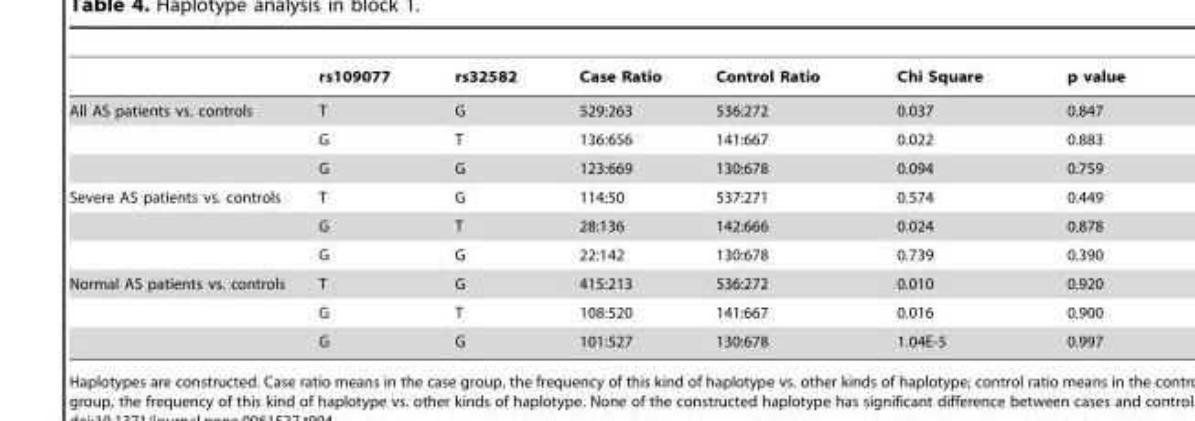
<table><thead><tr><td></td><td>rs109077</td><td>rs32582</td><td>Case Ratio</td><td>Control Ratio</td><td>Chi Square</td><td>p value</td></tr></thead><tbody><tr><td rowspan="3">All AS patients vs. controls</td><td>T</td><td>G</td><td>529:263</td><td>536:272</td><td>0.037</td><td>0.847</td></tr><tr><td>G</td><td>T</td><td>136:656</td><td>141:667</td><td>0.022</td><td>0.883</td></tr><tr><td>G</td><td>G</td><td>123:669</td><td>130:678</td><td>0.094</td><td>0.759</td></tr><tr><td rowspan="3">Severe AS patients vs. controls</td><td>T</td><td>G</td><td>114:50</td><td>537:271</td><td>0.574</td><td>0.449</td></tr><tr><td>G</td><td>T</td><td>28:136</td><td>142:666</td><td>0.024</td><td>0.878</td></tr><tr><td>G</td><td>G</td><td>22:142</td><td>130:678</td><td>0.739</td><td>0.390</td></tr><tr><td rowspan="3">Normal AS patients vs. controls</td><td>T</td><td>G</td><td>415:213</td><td>536:272</td><td>0.010</td><td>0.920</td></tr><tr><td>G</td><td>T</td><td>108:520</td><td>141:667</td><td>0.016</td><td>0.900</td></tr><tr><td>G</td><td>G</td><td>101:527</td><td>130:678</td><td>1.04E-5</td><td>0.997</td></tr></tbody></table>